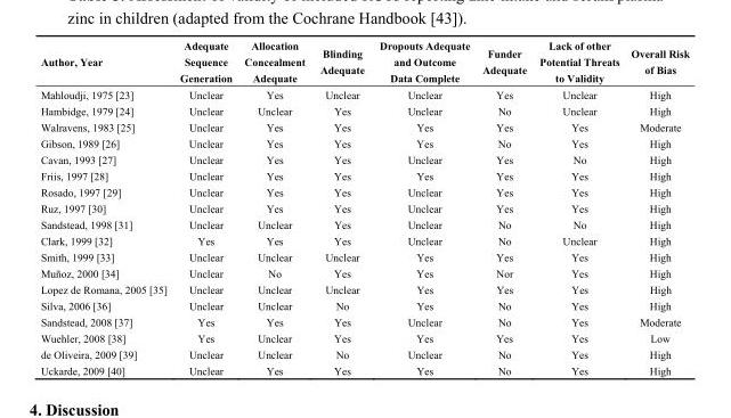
<table><thead><tr><td>Author, Year</td><td>Adequate Sequence Generation</td><td>Allocation Concealment Adequate</td><td>Blinding Adequate</td><td>Dropouts Adequate and Outcome Data Complete</td><td>Funder Adequate</td><td>Lack of other Potential Threats to Validity</td><td>Overall Risk of Bias</td></tr></thead><tbody><tr><td>Mahloudji, 1975 [23]</td><td>Unclear</td><td>Yes</td><td>Unclear</td><td>Unclear</td><td>Yes</td><td>Unclear</td><td>High</td></tr><tr><td>Hambidge, 1979 [24]</td><td>Unclear</td><td>Unclear</td><td>Yes</td><td>Unclear</td><td>No</td><td>Unclear</td><td>High</td></tr><tr><td>Walravens, 1983 [25]</td><td>Unclear</td><td>Yes</td><td>Yes</td><td>Yes</td><td>Yes</td><td>Yes</td><td>Moderate</td></tr><tr><td>Gibson, 1989 [26]</td><td>Unclear</td><td>Yes</td><td>Yes</td><td>Yes</td><td>No</td><td>Yes</td><td>High</td></tr><tr><td>Cavan, 1993 [27]</td><td>Unclear</td><td>Yes</td><td>Yes</td><td>Unclear</td><td>Yes</td><td>No</td><td>High</td></tr><tr><td>Friis, 1997 [28]</td><td>Unclear</td><td>Yes</td><td>Yes</td><td>Yes</td><td>Yes</td><td>Yes</td><td>High</td></tr><tr><td>Rosado, 1997 [29]</td><td>Unclear</td><td>Yes</td><td>Yes</td><td>Unclear</td><td>Yes</td><td>Yes</td><td>High</td></tr><tr><td>Ruz, 1997 [30]</td><td>Unclear</td><td>Yes</td><td>Yes</td><td>Unclear</td><td>Yes</td><td>Yes</td><td>High</td></tr><tr><td>Sandstead, 1998 [31]</td><td>Unclear</td><td>Unclear</td><td>Yes</td><td>Unclear</td><td>No</td><td>No</td><td>High</td></tr><tr><td>Clark, 1999 [32]</td><td>Yes</td><td>Yes</td><td>Yes</td><td>Unclear</td><td>No</td><td>Unclear</td><td>High</td></tr><tr><td>Smith, 1999 [33]</td><td>Unclear</td><td>Unclear</td><td>Unclear</td><td>Yes</td><td>Yes</td><td>Yes</td><td>High</td></tr><tr><td>Muñoz, 2000 [34]</td><td>Unclear</td><td>No</td><td>Yes</td><td>Yes</td><td>Nor</td><td>Yes</td><td>High</td></tr><tr><td>Lopez de Romana, 2005 [35]</td><td>Unclear</td><td>Unclear</td><td>Unclear</td><td>Yes</td><td>Yes</td><td>Yes</td><td>High</td></tr><tr><td>Silva, 2006 [36]</td><td>Unclear</td><td>Unclear</td><td>No</td><td>Yes</td><td>No</td><td>Yes</td><td>High</td></tr><tr><td>Sandstead, 2008 [37]</td><td>Yes</td><td>Yes</td><td>Yes</td><td>Unclear</td><td>No</td><td>Yes</td><td>Moderate</td></tr><tr><td>Wuehler, 2008 [38]</td><td>Yes</td><td>Unclear</td><td>Yes</td><td>Yes</td><td>Yes</td><td>Yes</td><td>Low</td></tr><tr><td>de Oliveira, 2009 [39]</td><td>Unclear</td><td>Unclear</td><td>No</td><td>Unclear</td><td>No</td><td>Yes</td><td>High</td></tr><tr><td>Uckarde, 2009 [40]</td><td>Unclear</td><td>Yes</td><td>Yes</td><td>Yes</td><td>No</td><td>Yes</td><td>High</td></tr></tbody></table>